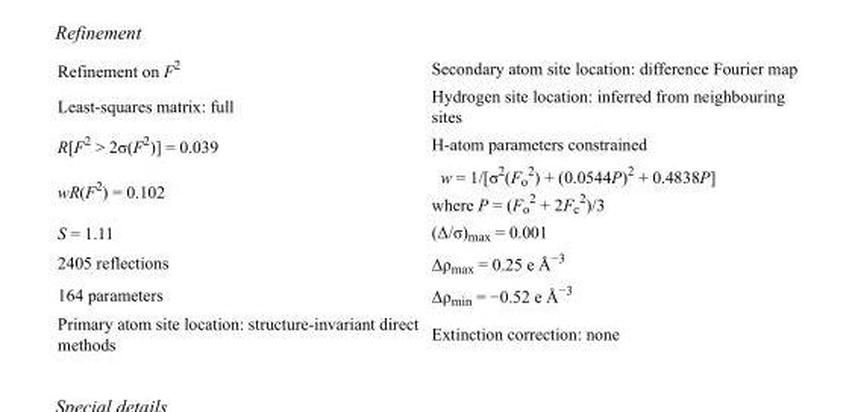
<table><tbody><tr><td>Refinement on F<sup>2</sup></td><td>Secondary atom site location: difference Fourier map</td></tr><tr><td>Least-squares matrix: full</td><td>Hydrogen site location: inferred from neighbouring sites</td></tr><tr><td>R[F<sup>2</sup> &gt; 2σ(F<sup>2</sup>)] = 0.039</td><td>H-atom parameters constrained</td></tr><tr><td>wR(F<sup>2</sup>) = 0.102</td><td>w = 1/[σ<sup>2</sup>(F<sub>o</sub> <sup>2</sup>) + (0.0544P)<sup>2</sup> + 0.4838P] where P = (F<sub>o</sub> <sup>2</sup> + 2F<sub>c</sub> <sup>2</sup>)/3</td></tr><tr><td>S = 1.11</td><td>(Δ/σ)<sub>max</sub> = 0.001</td></tr><tr><td>2405 reflections</td><td>Δρ<sub>max</sub> = 0.25 e Å<sup>−3</sup></td></tr><tr><td>164 parameters</td><td>Δρ<sub>min</sub> = −0.52 e Å<sup>−3</sup></td></tr><tr><td>Primary atom site location: structure-invariant direct methods</td><td>Extinction correction: none</td></tr></tbody></table>